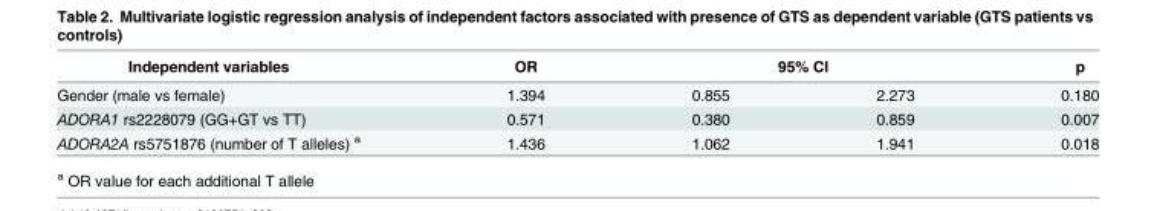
<table><thead><tr><td rowspan="2">Independent variables Gender (male vs female)</td><td rowspan="2">OR 1.394</td><td colspan="2">95% CI</td><td rowspan="2">p 0.180</td></tr><tr><td>0.855</td><td>2.273</td></tr></thead><tbody><tr><td>ADORA1 rs2228079 (GG+GT vs TT)</td><td>0.571</td><td>0.380</td><td>0.859</td><td>0.007</td></tr><tr><td>ADORA2A rs5751876 (number of T alleles) <sup>a</sup></td><td>1.436</td><td>1.062</td><td>1.941</td><td>0.018</td></tr></tbody></table>